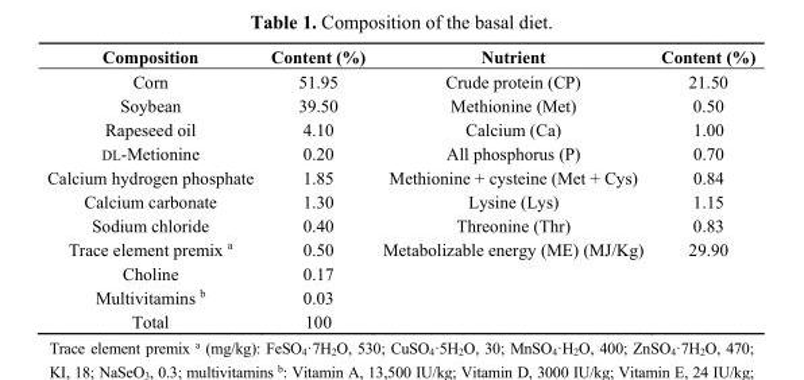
<table><thead><tr><td>Composition</td><td>Content (%)</td><td>Nutrient</td><td>Content (%)</td></tr></thead><tbody><tr><td>Corn</td><td>51.95</td><td>Crude protein (CP)</td><td>21.50</td></tr><tr><td>Soybean</td><td>39.50</td><td>Methionine (Met)</td><td>0.50</td></tr><tr><td>Rapeseed oil</td><td>4.10</td><td>Calcium (Ca)</td><td>1.00</td></tr><tr><td>DL-Metionine</td><td>0.20</td><td>All phosphorus (P)</td><td>0.70</td></tr><tr><td>Calcium hydrogen phosphate</td><td>1.85</td><td>Methionine + cysteine (Met + Cys)</td><td>0.84</td></tr><tr><td>Calcium carbonate</td><td>1.30</td><td>Lysine (Lys)</td><td>1.15</td></tr><tr><td>Sodium chloride</td><td>0.40</td><td>Threonine (Thr)</td><td>0.83</td></tr><tr><td>Trace element premix <sup>a</sup></td><td>0.50</td><td>Metabolizable energy (ME) (MJ/Kg)</td><td>29.90</td></tr><tr><td>Choline</td><td>0.17</td><td></td><td></td></tr><tr><td>Multivitamins <sup>b</sup></td><td>0.03</td><td></td><td></td></tr><tr><td>Total</td><td>100</td><td></td><td></td></tr></tbody></table>